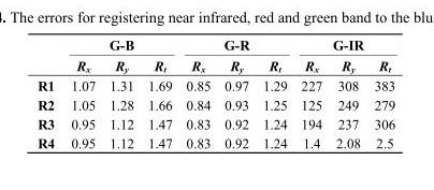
<table><thead><tr><td rowspan="2"></td><td colspan="3">G-B</td><td colspan="3">G-R</td><td colspan="3">G-IR</td></tr><tr><td>R<sub>x</sub></td><td>R<sub>y</sub></td><td>R<sub>t</sub></td><td>R<sub>x</sub></td><td>R<sub>y</sub></td><td>R<sub>t</sub></td><td>R<sub>x</sub></td><td>R<sub>y</sub></td><td>R<sub>t</sub></td></tr></thead><tbody><tr><td>R1</td><td>1.07</td><td>1.31</td><td>1.69</td><td>0.85</td><td>0.97</td><td>1.29</td><td>227</td><td>308</td><td>383</td></tr><tr><td>R2</td><td>1.05</td><td>1.28</td><td>1.66</td><td>0.84</td><td>0.93</td><td>1.25</td><td>125</td><td>249</td><td>279</td></tr><tr><td>R3</td><td>0.95</td><td>1.12</td><td>1.47</td><td>0.83</td><td>0.92</td><td>1.24</td><td>194</td><td>237</td><td>306</td></tr><tr><td>R4</td><td>0.95</td><td>1.12</td><td>1.47</td><td>0.83</td><td>0.92</td><td>1.24</td><td>1.4</td><td>2.08</td><td>2.5</td></tr></tbody></table>